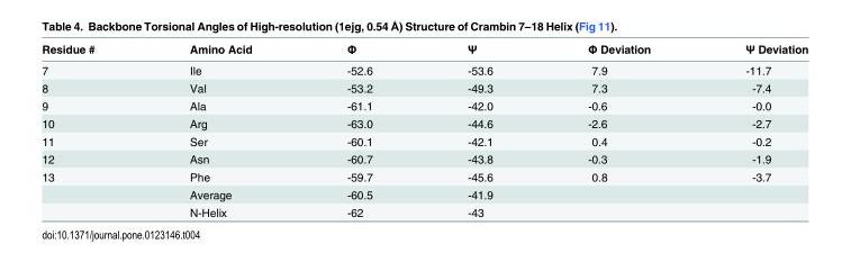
<table><thead><tr><td>Residue #</td><td>Amino Acid</td><td>Φ</td><td>Ψ</td><td>Φ Deviation</td><td>Ψ Deviation</td></tr></thead><tbody><tr><td>7</td><td>Ile</td><td>-52.6</td><td>-53.6</td><td>7.9</td><td>-11.7</td></tr><tr><td>8</td><td>Val</td><td>-53.2</td><td>-49.3</td><td>7.3</td><td>-7.4</td></tr><tr><td>9</td><td>Ala</td><td>-61.1</td><td>-42.0</td><td>-0.6</td><td>-0.0</td></tr><tr><td>10</td><td>Arg</td><td>-63.0</td><td>-44.6</td><td>-2.6</td><td>-2.7</td></tr><tr><td>11</td><td>Ser</td><td>-60.1</td><td>-42.1</td><td>0.4</td><td>-0.2</td></tr><tr><td>12</td><td>Asn</td><td>-60.7</td><td>-43.8</td><td>-0.3</td><td>-1.9</td></tr><tr><td rowspan="3">13</td><td>Phe</td><td>-59.7</td><td>-45.6</td><td>0.8</td><td>-3.7</td></tr><tr><td>Average</td><td>-60.5</td><td>-41.9</td><td></td><td></td></tr><tr><td>N-Helix</td><td>-62</td><td>-43</td><td></td><td></td></tr></tbody></table>